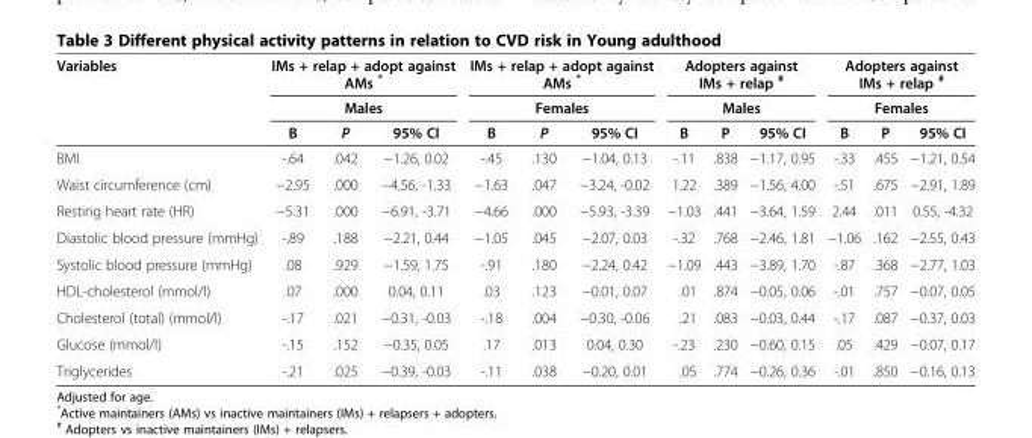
<table><thead><tr><td rowspan="3">Variables</td><td rowspan="2" colspan="3">IMs + relap + adopt against AMs * Males</td><td rowspan="2" colspan="3">IMs + relap + adopt against AMs * Females</td><td rowspan="2" colspan="3">Adopters against IMs + relap <sup>#</sup> Males</td><td rowspan="2" colspan="3">Adopters against IMs + relap <sup>#</sup> Females</td></tr><tr></tr><tr><td>B</td><td>P</td><td>95% CI</td><td>B</td><td>P</td><td>95% CI</td><td>B</td><td>P</td><td>95% CI</td><td>B</td><td>P</td><td>95% CI</td></tr></thead><tbody><tr><td>BMI</td><td>-.64</td><td>.042</td><td>−1.26, 0.02</td><td>-.45</td><td>.130</td><td>−1.04, 0.13</td><td>-.11</td><td>.838</td><td>−1.17, 0.95</td><td>-.33</td><td>.455</td><td>−1.21, 0.54</td></tr><tr><td>Waist circumference (cm)</td><td>−2.95</td><td>.000</td><td>−4.56, -1.33</td><td>−1.63</td><td>.047</td><td>−3.24, -0.02</td><td>1.22</td><td>.389</td><td>−1.56, 4.00</td><td>-.51</td><td>.675</td><td>−2.91, 1.89</td></tr><tr><td>Resting heart rate (HR)</td><td>−5.31</td><td>.000</td><td>−6.91, -3.71</td><td>−4.66</td><td>.000</td><td>−5.93, -3.39</td><td>−1.03</td><td>.441</td><td>−3.64, 1.59</td><td>2.44</td><td>.011</td><td>0.55, -4.32</td></tr><tr><td>Diastolic blood pressure (mmHg)</td><td>-.89</td><td>.188</td><td>−2.21, 0.44</td><td>−1.05</td><td>.045</td><td>−2.07, 0.03</td><td>-.32</td><td>.768</td><td>−2.46, 1.81</td><td>−1.06</td><td>.162</td><td>−2.55, 0.43</td></tr><tr><td>Systolic blood pressure (mmHg)</td><td>.08</td><td>.929</td><td>−1.59, 1.75</td><td>-.91</td><td>.180</td><td>−2.24, 0.42</td><td>−1.09</td><td>.443</td><td>−3.89, 1.70</td><td>-.87</td><td>.368</td><td>−2.77, 1.03</td></tr><tr><td>HDL-cholesterol (mmol/l)</td><td>.07</td><td>.000</td><td>0.04, 0.11</td><td>.03</td><td>.123</td><td>−0.01, 0.07</td><td>.01</td><td>.874</td><td>−0.05, 0.06</td><td>-.01</td><td>.757</td><td>−0.07, 0.05</td></tr><tr><td>Cholesterol (total) (mmol/l)</td><td>-.17</td><td>.021</td><td>−0.31, -0.03</td><td>-.18</td><td>.004</td><td>−0.30, -0.06</td><td>.21</td><td>.083</td><td>−0.03, 0.44</td><td>-.17</td><td>.087</td><td>−0.37, 0.03</td></tr><tr><td>Glucose (mmol/l)</td><td>-.15</td><td>.152</td><td>−0.35, 0.05</td><td>.17</td><td>.013</td><td>0.04, 0.30</td><td>-.23</td><td>.230</td><td>−0.60, 0.15</td><td>.05</td><td>.429</td><td>−0.07, 0.17</td></tr><tr><td>Triglycerides</td><td>-.21</td><td>.025</td><td>−0.39, -0.03</td><td>-.11</td><td>.038</td><td>−0.20, 0.01</td><td>.05</td><td>.774</td><td>−0.26, 0.36</td><td>-.01</td><td>.850</td><td>−0.16, 0.13</td></tr></tbody></table>